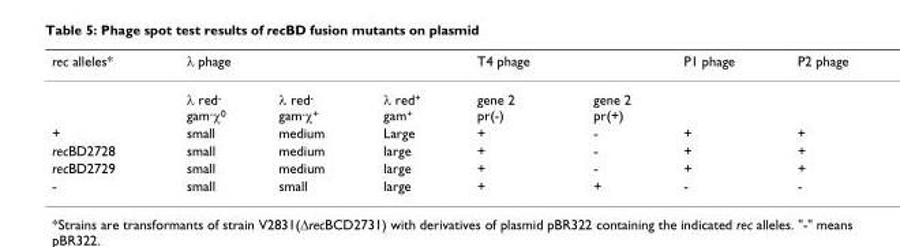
<table><thead><tr><td>rec alleles*</td><td>λ phage</td><td></td><td></td><td>T4 phage</td><td></td><td>P1 phage</td><td>P2 phage</td></tr></thead><tbody><tr><td></td><td>λ red<sup>-</sup> gam<sup>-</sup>χ<sup>0</sup></td><td>λ red<sup>-</sup> gam<sup>-</sup>χ<sup>+</sup></td><td>λ red<sup>+</sup> gam<sup>+</sup></td><td>gene 2 pr(-)</td><td>gene 2 pr(+)</td><td></td><td></td></tr><tr><td>+</td><td>small</td><td>medium</td><td>Large</td><td>+</td><td>-</td><td>+</td><td>+</td></tr><tr><td>recBD2728</td><td>small</td><td>medium</td><td>large</td><td>+</td><td>-</td><td>+</td><td>+</td></tr><tr><td>recBD2729</td><td>small</td><td>medium</td><td>large</td><td>+</td><td>-</td><td>+</td><td>+</td></tr><tr><td>-</td><td>small</td><td>small</td><td>large</td><td>+</td><td>+</td><td>-</td><td>-</td></tr></tbody></table>